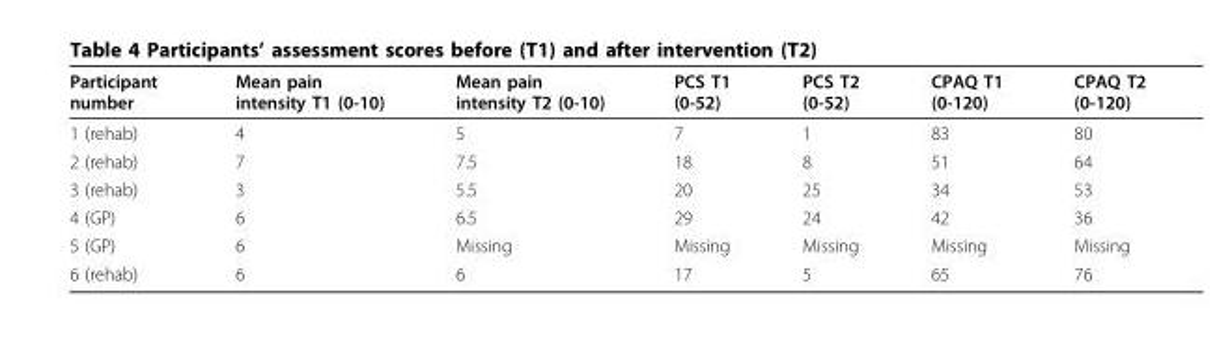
<table><thead><tr><td>Participant number</td><td>Mean pain intensity T1 (0-10)</td><td>Mean pain intensity T2 (0-10)</td><td>PCS T1 (0-52)</td><td>PCS T2 (0-52)</td><td>CPAQ T1 (0-120)</td><td>CPAQ T2 (0-120)</td></tr></thead><tbody><tr><td>1 (rehab)</td><td>4</td><td>5</td><td>7</td><td>1</td><td>83</td><td>80</td></tr><tr><td>2 (rehab)</td><td>7</td><td>7.5</td><td>18</td><td>8</td><td>51</td><td>64</td></tr><tr><td>3 (rehab)</td><td>3</td><td>5.5</td><td>20</td><td>25</td><td>34</td><td>53</td></tr><tr><td>4 (GP)</td><td>6</td><td>6.5</td><td>29</td><td>24</td><td>42</td><td>36</td></tr><tr><td>5 (GP)</td><td>6</td><td>Missing</td><td>Missing</td><td>Missing</td><td>Missing</td><td>Missing</td></tr><tr><td>6 (rehab)</td><td>6</td><td>6</td><td>17</td><td>5</td><td>65</td><td>76</td></tr></tbody></table>